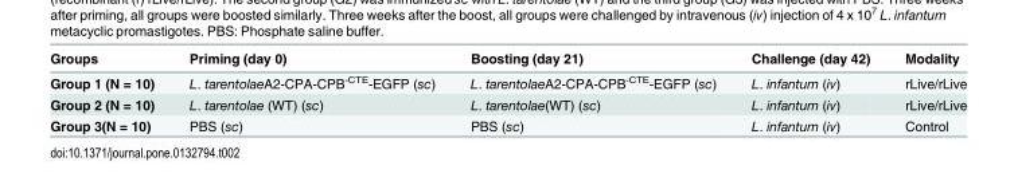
<table><thead><tr><td>Groups</td><td>Priming (day 0)</td><td>Boosting (day 21)</td><td>Challenge (day 42)</td><td>Modality</td></tr></thead><tbody><tr><td>Group 1 (N = 10)</td><td>L. tarentolaeA2-CPA-CPB-CTE-EGFP (sc)</td><td>L. tarentolaeA2-CPA-CPB-CTE-EGFP (sc)</td><td>L. infantum (iv)</td><td>rLive/rLive</td></tr><tr><td>Group 2 (N = 10)</td><td>L. tarentolae (WT) (sc)</td><td>L. tarentolae(WT) (sc)</td><td>L. infantum (iv)</td><td>rLive/rLive</td></tr><tr><td>Group 3(N = 10)</td><td>PBS (sc)</td><td>PBS (sc)</td><td>L. infantum (iv)</td><td>Control</td></tr></tbody></table>